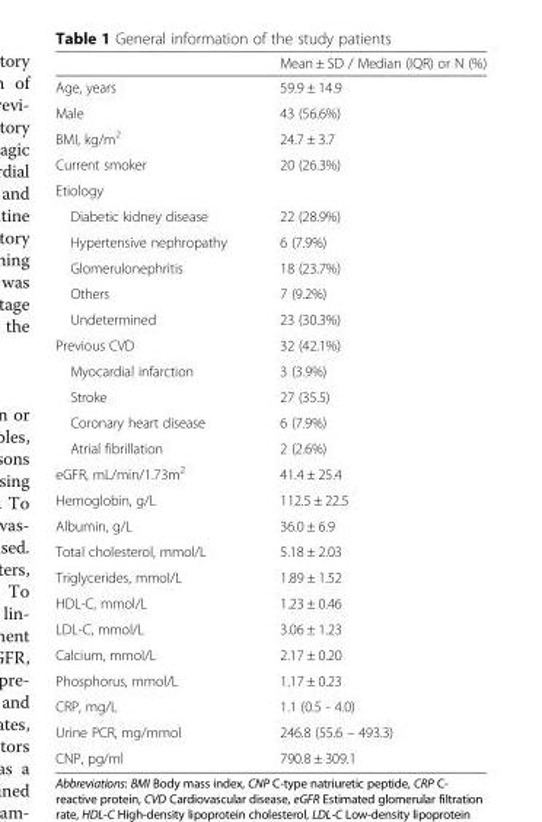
<table><thead><tr><td></td><td>Mean ± SD / Median (IQR) or N (%)</td></tr></thead><tbody><tr><td>Age, years</td><td>59.9 ± 14.9</td></tr><tr><td>Male</td><td>43 (56.6%)</td></tr><tr><td>BMI, kg/m<sup>2</sup></td><td>24.7 ± 3.7</td></tr><tr><td>Current smoker</td><td>20 (26.3%)</td></tr><tr><td colspan="2">Etiology</td></tr><tr><td>Diabetic kidney disease</td><td>22 (28.9%)</td></tr><tr><td>Hypertensive nephropathy</td><td>6 (7.9%)</td></tr><tr><td>Glomerulonephritis</td><td>18 (23.7%)</td></tr><tr><td>Others</td><td>7 (9.2%)</td></tr><tr><td>Undetermined</td><td>23 (30.3%)</td></tr><tr><td>Previous CVD</td><td>32 (42.1%)</td></tr><tr><td>Myocardial infarction</td><td>3 (3.9%)</td></tr><tr><td>Stroke</td><td>27 (35.5)</td></tr><tr><td>Coronary heart disease</td><td>6 (7.9%)</td></tr><tr><td>Atrial fibrillation</td><td>2 (2.6%)</td></tr><tr><td>eGFR, mL/min/1.73m<sup>2</sup></td><td>41.4 ± 25.4</td></tr><tr><td>Hemoglobin, g/L</td><td>112.5 ± 22.5</td></tr><tr><td>Albumin, g/L</td><td>36.0 ± 6.9</td></tr><tr><td>Total cholesterol, mmol/L</td><td>5.18 ± 2.03</td></tr><tr><td>Triglycerides, mmol/L</td><td>1.89 ± 1.52</td></tr><tr><td>HDL-C, mmol/L</td><td>1.23 ± 0.46</td></tr><tr><td>LDL-C, mmol/L</td><td>3.06 ± 1.23</td></tr><tr><td>Calcium, mmol/L</td><td>2.17 ± 0.20</td></tr><tr><td>Phosphorus, mmol/L</td><td>1.17 ± 0.23</td></tr><tr><td>CRP, mg/L</td><td>1.1 (0.5 - 4.0)</td></tr><tr><td>Urine PCR, mg/mmol</td><td>246.8 (55.6 – 493.3)</td></tr><tr><td>CNP, pg/ml</td><td>790.8 ± 309.1</td></tr></tbody></table>